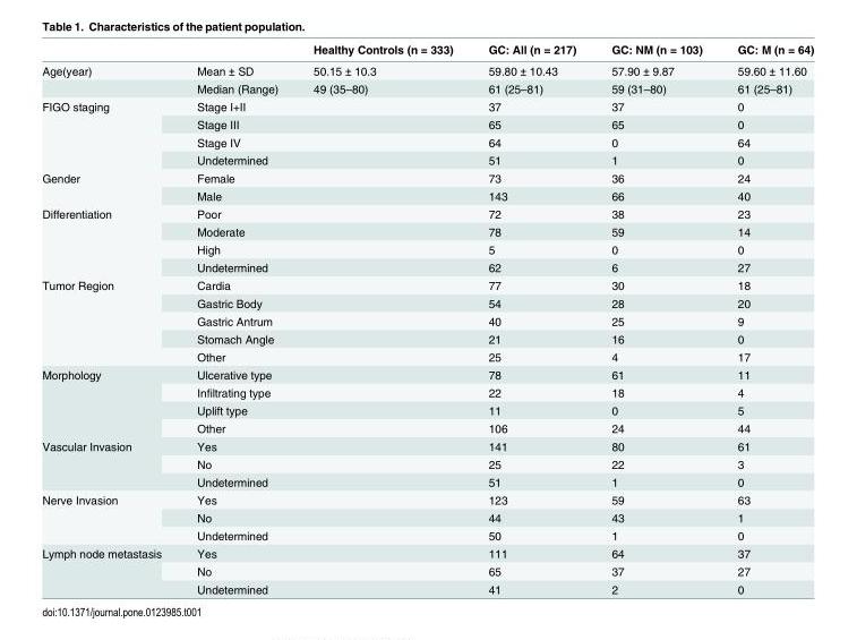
<table><thead><tr><td></td><td></td><td>Healthy Controls (n = 333)</td><td>GC: All (n = 217)</td><td>GC: NM (n = 103)</td><td>GC: M (n = 64)</td></tr></thead><tbody><tr><td rowspan="2">Age(year)</td><td>Mean ± SD</td><td>50.15 ± 10.3</td><td>59.80 ± 10.43</td><td>57.90 ± 9.87</td><td>59.60 ± 11.60</td></tr><tr><td>Median (Range)</td><td>49 (35–80)</td><td>61 (25–81)</td><td>59 (31–80)</td><td>61 (25–81)</td></tr><tr><td rowspan="4">FIGO staging</td><td>Stage I+II</td><td></td><td>37</td><td>37</td><td>0</td></tr><tr><td>Stage III</td><td></td><td>65</td><td>65</td><td>0</td></tr><tr><td>Stage IV</td><td></td><td>64</td><td>0</td><td>64</td></tr><tr><td>Undetermined</td><td></td><td>51</td><td>1</td><td>0</td></tr><tr><td rowspan="2">Gender</td><td>Female</td><td></td><td>73</td><td>36</td><td>24</td></tr><tr><td>Male</td><td></td><td>143</td><td>66</td><td>40</td></tr><tr><td rowspan="4">Differentiation</td><td>Poor</td><td></td><td>72</td><td>38</td><td>23</td></tr><tr><td>Moderate</td><td></td><td>78</td><td>59</td><td>14</td></tr><tr><td>High</td><td></td><td>5</td><td>0</td><td>0</td></tr><tr><td>Undetermined</td><td></td><td>62</td><td>6</td><td>27</td></tr><tr><td rowspan="5">Tumor Region</td><td>Cardia</td><td></td><td>77</td><td>30</td><td>18</td></tr><tr><td>Gastric Body</td><td></td><td>54</td><td>28</td><td>20</td></tr><tr><td>Gastric Antrum</td><td></td><td>40</td><td>25</td><td>9</td></tr><tr><td>Stomach Angle</td><td></td><td>21</td><td>16</td><td>0</td></tr><tr><td>Other</td><td></td><td>25</td><td>4</td><td>17</td></tr><tr><td rowspan="4">Morphology</td><td>Ulcerative type</td><td></td><td>78</td><td>61</td><td>11</td></tr><tr><td>Infiltrating type</td><td></td><td>22</td><td>18</td><td>4</td></tr><tr><td>Uplift type</td><td></td><td>11</td><td>0</td><td>5</td></tr><tr><td>Other</td><td></td><td>106</td><td>24</td><td>44</td></tr><tr><td rowspan="3">Vascular Invasion</td><td>Yes</td><td></td><td>141</td><td>80</td><td>61</td></tr><tr><td>No</td><td></td><td>25</td><td>22</td><td>3</td></tr><tr><td>Undetermined</td><td></td><td>51</td><td>1</td><td>0</td></tr><tr><td rowspan="3">Nerve Invasion</td><td>Yes</td><td></td><td>123</td><td>59</td><td>63</td></tr><tr><td>No</td><td></td><td>44</td><td>43</td><td>1</td></tr><tr><td>Undetermined</td><td></td><td>50</td><td>1</td><td>0</td></tr><tr><td rowspan="3">Lymph node metastasis</td><td>Yes</td><td></td><td>111</td><td>64</td><td>37</td></tr><tr><td>No</td><td></td><td>65</td><td>37</td><td>27</td></tr><tr><td>Undetermined</td><td></td><td>41</td><td>2</td><td>0</td></tr></tbody></table>